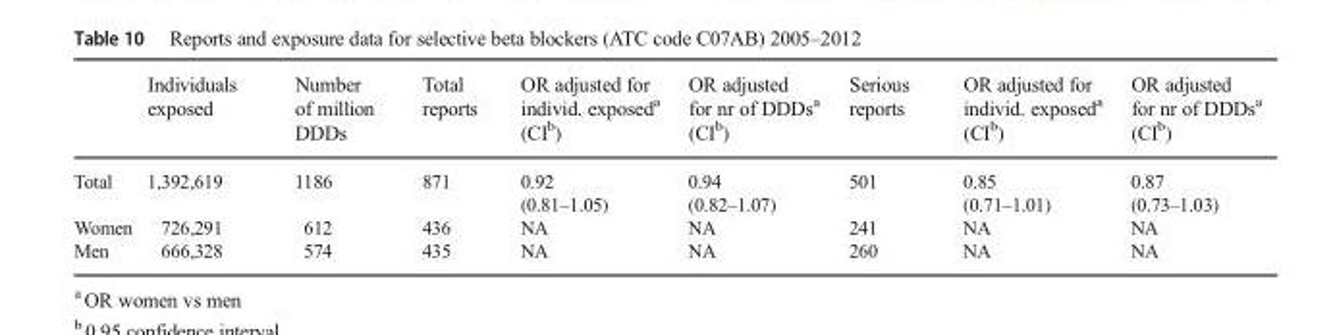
<table><thead><tr><td></td><td>Individuals exposed</td><td>Number of million DDDs</td><td>Total reports</td><td>OR adjusted for individ. exposed<sup>a</sup> (CI<sup>b</sup>)</td><td>OR adjusted for nr of DDDs<sup>a</sup> (CI<sup>b</sup>)</td><td>Serious reports</td><td>OR adjusted for individ. exposed<sup>a</sup> (CI<sup>b</sup>)</td><td>OR adjusted for nr of DDDs<sup>a</sup> (CI<sup>b</sup>)</td></tr></thead><tbody><tr><td>Total</td><td>1,392,619</td><td>1186</td><td>871</td><td>0.92 (0.81–1.05)</td><td>0.94 (0.82–1.07)</td><td>501</td><td>0.85 (0.71–1.01)</td><td>0.87 (0.73–1.03)</td></tr><tr><td>Women</td><td>726,291</td><td>612</td><td>436</td><td>NA</td><td>NA</td><td>241</td><td>NA</td><td>NA</td></tr><tr><td>Men</td><td>666,328</td><td>574</td><td>435</td><td>NA</td><td>NA</td><td>260</td><td>NA</td><td>NA</td></tr></tbody></table>